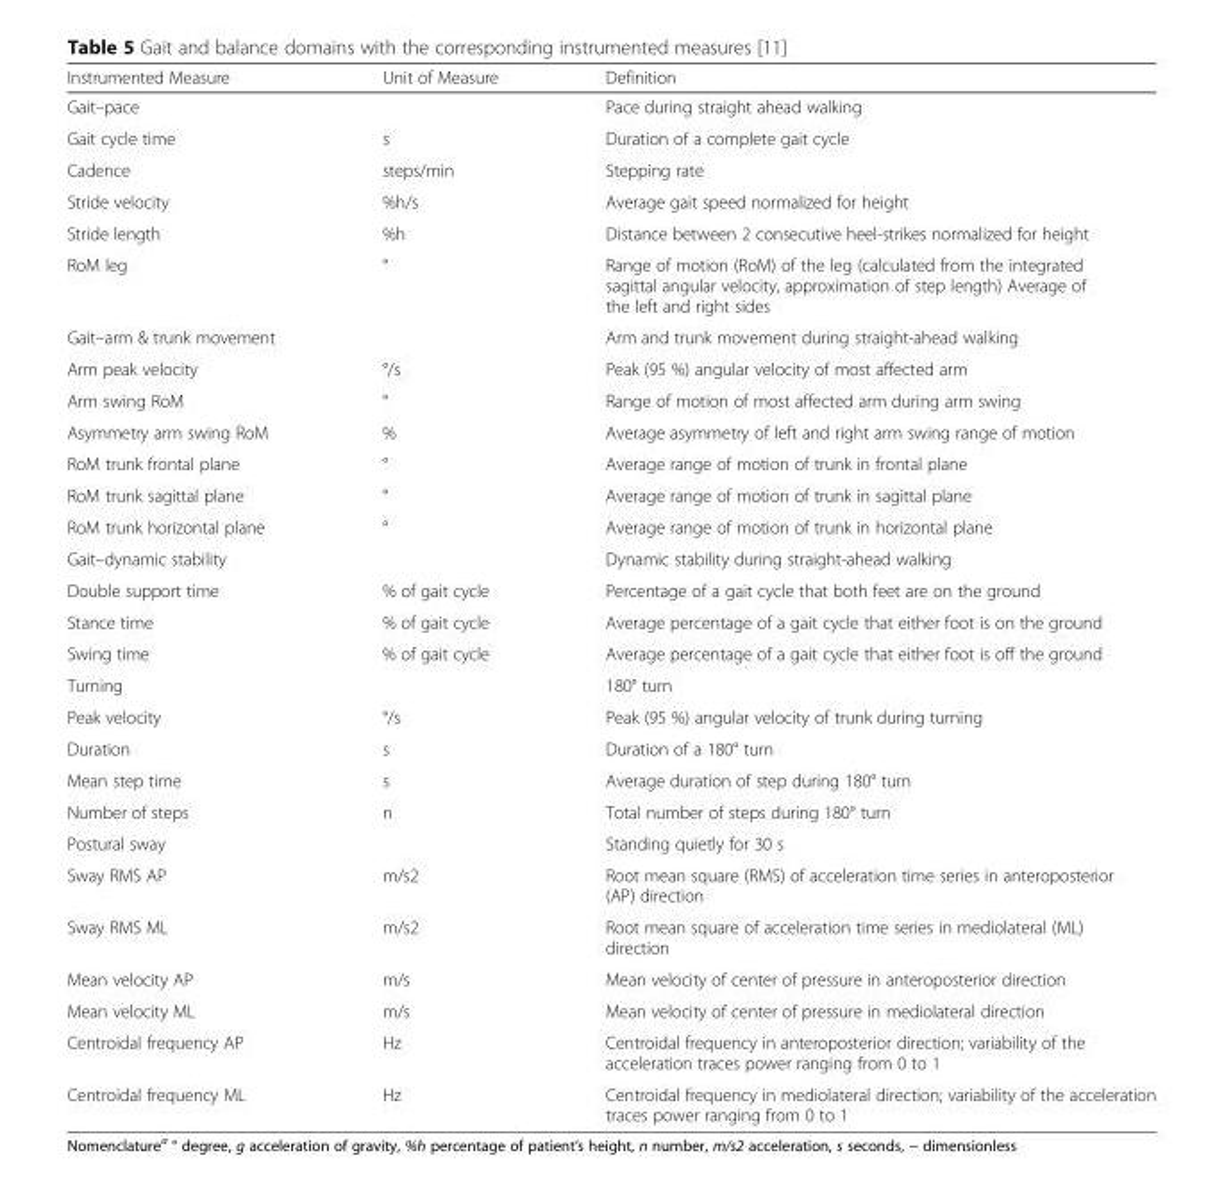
<table><thead><tr><td>Instrumented Measure</td><td>Unit of Measure</td><td>Definition</td></tr></thead><tbody><tr><td>Gait–pace</td><td></td><td>Pace during straight ahead walking</td></tr><tr><td>Gait cycle time</td><td>s</td><td>Duration of a complete gait cycle</td></tr><tr><td>Cadence</td><td>steps/min</td><td>Stepping rate</td></tr><tr><td>Stride velocity</td><td>%h/s</td><td>Average gait speed normalized for height</td></tr><tr><td>Stride length</td><td>%h</td><td>Distance between 2 consecutive heel-strikes normalized for height</td></tr><tr><td>RoM leg</td><td>°</td><td>Range of motion (RoM) of the leg (calculated from the integrated sagittal angular velocity, approximation of step length) Average of the left and right sides</td></tr><tr><td>Gait–arm &amp; trunk movement</td><td></td><td>Arm and trunk movement during straight-ahead walking</td></tr><tr><td>Arm peak velocity</td><td>°/s</td><td>Peak (95 %) angular velocity of most affected arm</td></tr><tr><td>Arm swing RoM</td><td>°</td><td>Range of motion of most affected arm during arm swing</td></tr><tr><td>Asymmetry arm swing RoM</td><td>%</td><td>Average asymmetry of left and right arm swing range of motion</td></tr><tr><td>RoM trunk frontal plane</td><td>°</td><td>Average range of motion of trunk in frontal plane</td></tr><tr><td>RoM trunk sagittal plane</td><td>°</td><td>Average range of motion of trunk in sagittal plane</td></tr><tr><td>RoM trunk horizontal plane</td><td>°</td><td>Average range of motion of trunk in horizontal plane</td></tr><tr><td>Gait–dynamic stability</td><td></td><td>Dynamic stability during straight-ahead walking</td></tr><tr><td>Double support time</td><td>% of gait cycle</td><td>Percentage of a gait cycle that both feet are on the ground</td></tr><tr><td>Stance time</td><td>% of gait cycle</td><td>Average percentage of a gait cycle that either foot is on the ground</td></tr><tr><td>Swing time</td><td>% of gait cycle</td><td>Average percentage of a gait cycle that either foot is off the ground</td></tr><tr><td>Turning</td><td></td><td>180° turn</td></tr><tr><td>Peak velocity</td><td>°/s</td><td>Peak (95 %) angular velocity of trunk during turning</td></tr><tr><td>Duration</td><td>s</td><td>Duration of a 180° turn</td></tr><tr><td>Mean step time</td><td>s</td><td>Average duration of step during 180° turn</td></tr><tr><td>Number of steps</td><td>n</td><td>Total number of steps during 180° turn</td></tr><tr><td>Postural sway</td><td></td><td>Standing quietly for 30 s</td></tr><tr><td>Sway RMS AP</td><td>m/s2</td><td>Root mean square (RMS) of acceleration time series in anteroposterior (AP) direction</td></tr><tr><td>Sway RMS ML</td><td>m/s2</td><td>Root mean square of acceleration time series in mediolateral (ML) direction</td></tr><tr><td>Mean velocity AP</td><td>m/s</td><td>Mean velocity of center of pressure in anteroposterior direction</td></tr><tr><td>Mean velocity ML</td><td>m/s</td><td>Mean velocity of center of pressure in mediolateral direction</td></tr><tr><td>Centroidal frequency AP</td><td>Hz</td><td>Centroidal frequency in anteroposterior direction; variability of the acceleration traces power ranging from 0 to 1</td></tr><tr><td>Centroidal frequency ML</td><td>Hz</td><td>Centroidal frequency in mediolateral direction; variability of the acceleration traces power ranging from 0 to 1</td></tr></tbody></table>